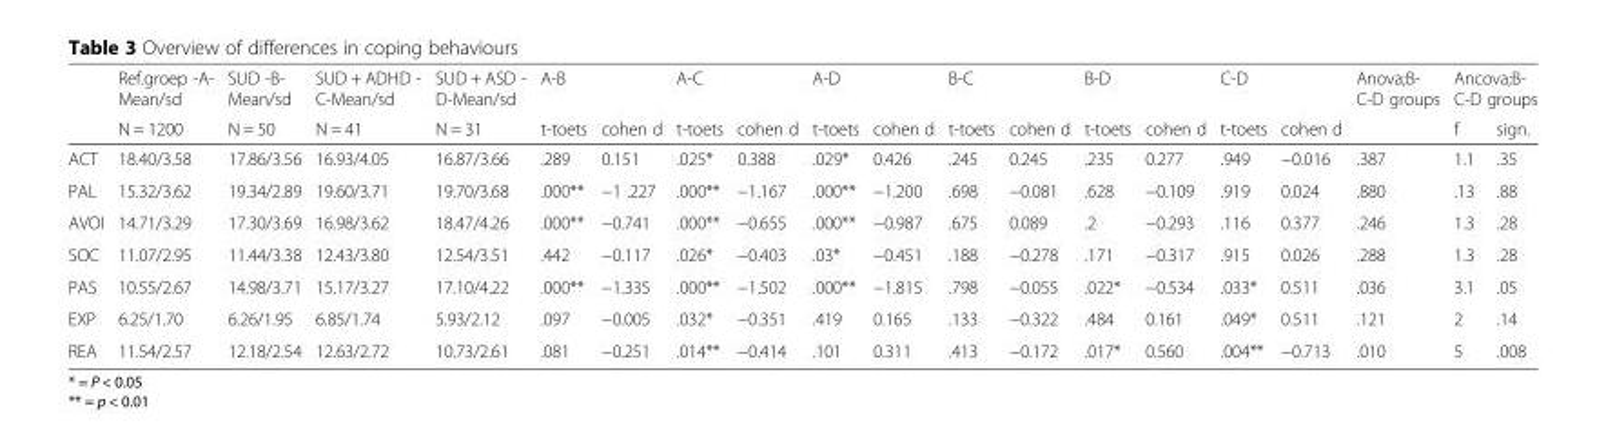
<table><thead><tr><td rowspan="2"></td><td rowspan="2">Ref.groep -A- Mean/sd N = 1200</td><td rowspan="2">SUD -B- Mean/sd N = 50</td><td rowspan="2">SUD + ADHD - C-Mean/sd N = 41</td><td rowspan="2">SUD + ASD - D-Mean/sd N = 31</td><td colspan="2">A-B</td><td colspan="2">A-C</td><td colspan="2">A-D</td><td colspan="2">B-C</td><td colspan="2">B-D</td><td colspan="2">C-D</td><td rowspan="2">Anova;B- C-D groups</td><td colspan="2">Ancova;B- C-D groups</td></tr><tr><td>t-toets</td><td>cohen d</td><td>t-toets</td><td>cohen d</td><td>t-toets</td><td>cohen d</td><td>t-toets</td><td>cohen d</td><td>t-toets</td><td>cohen d</td><td>t-toets</td><td>cohen d</td><td>f</td><td>sign.</td></tr></thead><tbody><tr><td>ACT</td><td>18.40/3.58</td><td>17.86/3.56</td><td>16.93/4.05</td><td>16.87/3.66</td><td>.289</td><td>0.151</td><td>.025*</td><td>0.388</td><td>.029*</td><td>0.426</td><td>.245</td><td>0.245</td><td>.235</td><td>0.277</td><td>.949</td><td>−0.016</td><td>.387</td><td>1.1</td><td>.35</td></tr><tr><td>PAL</td><td>15.32/3.62</td><td>19.34/2.89</td><td>19.60/3.71</td><td>19.70/3.68</td><td>.000**</td><td>−1 .227</td><td>.000**</td><td>−1.167</td><td>.000**</td><td>−1.200</td><td>.698</td><td>−0.081</td><td>.628</td><td>−0.109</td><td>.919</td><td>0.024</td><td>.880</td><td>.13</td><td>.88</td></tr><tr><td>AVOI</td><td>14.71/3.29</td><td>17.30/3.69</td><td>16.98/3.62</td><td>18.47/4.26</td><td>.000**</td><td>−0.741</td><td>.000**</td><td>−0.655</td><td>.000**</td><td>−0.987</td><td>.675</td><td>0.089</td><td>.2</td><td>−0.293</td><td>.116</td><td>0.377</td><td>.246</td><td>1.3</td><td>.28</td></tr><tr><td>SOC</td><td>11.07/2.95</td><td>11.44/3.38</td><td>12.43/3.80</td><td>12.54/3.51</td><td>.442</td><td>−0.117</td><td>.026*</td><td>−0.403</td><td>.03*</td><td>−0.451</td><td>.188</td><td>−0.278</td><td>.171</td><td>−0.317</td><td>.915</td><td>0.026</td><td>.288</td><td>1.3</td><td>.28</td></tr><tr><td>PAS</td><td>10.55/2.67</td><td>14.98/3.71</td><td>15.17/3.27</td><td>17.10/4.22</td><td>.000**</td><td>−1.335</td><td>.000**</td><td>−1.502</td><td>.000**</td><td>−1.815</td><td>.798</td><td>−0.055</td><td>.022*</td><td>−0.534</td><td>.033*</td><td>0.511</td><td>.036</td><td>3.1</td><td>.05</td></tr><tr><td>EXP</td><td>6.25/1.70</td><td>6.26/1.95</td><td>6.85/1.74</td><td>5.93/2.12</td><td>.097</td><td>−0.005</td><td>.032*</td><td>−0.351</td><td>.419</td><td>0.165</td><td>.133</td><td>−0.322</td><td>.484</td><td>0.161</td><td>.049*</td><td>0.511</td><td>.121</td><td>2</td><td>.14</td></tr><tr><td>REA</td><td>11.54/2.57</td><td>12.18/2.54</td><td>12.63/2.72</td><td>10.73/2.61</td><td>.081</td><td>−0.251</td><td>.014**</td><td>−0.414</td><td>.101</td><td>0.311</td><td>.413</td><td>−0.172</td><td>.017*</td><td>0.560</td><td>.004**</td><td>−0.713</td><td>.010</td><td>5</td><td>.008</td></tr></tbody></table>